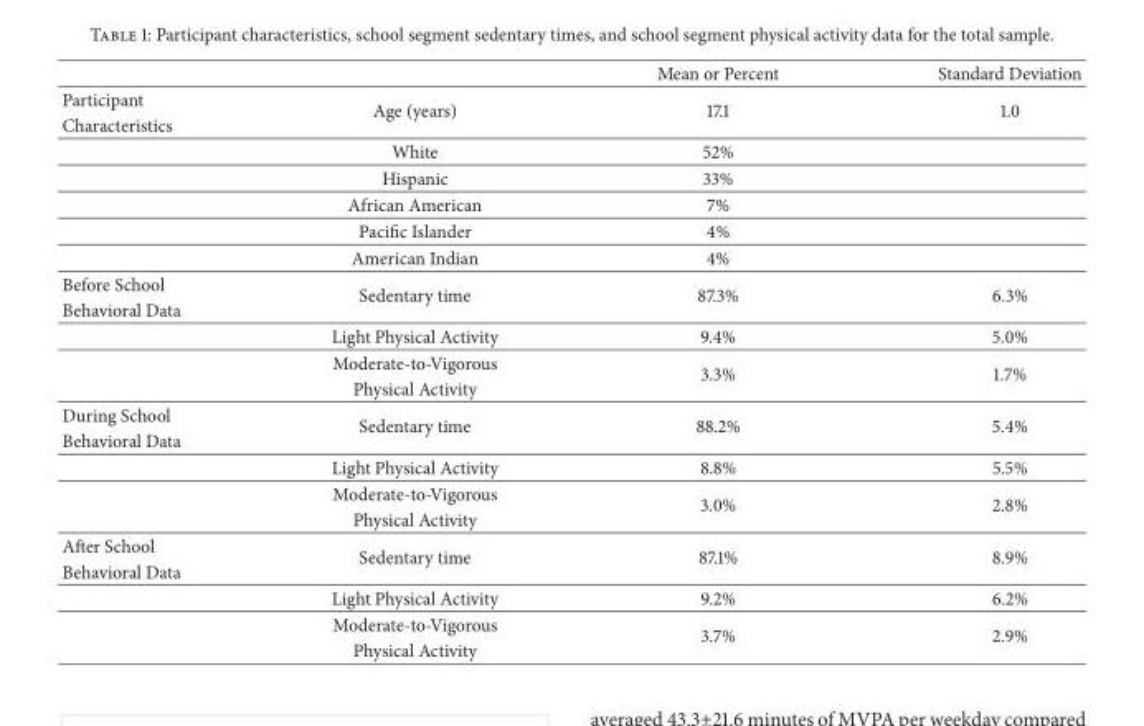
<table><thead><tr><td></td><td></td><td>Mean or Percent</td><td>Standard Deviation</td></tr></thead><tbody><tr><td>Participant</td><td rowspan="2">Age (years)</td><td rowspan="2">17.1</td><td rowspan="2">1.0</td></tr><tr><td rowspan="6">Characteristics</td></tr><tr><td>White</td><td>52%</td><td></td></tr><tr><td>Hispanic</td><td>33%</td><td></td></tr><tr><td>African American</td><td>7%</td><td></td></tr><tr><td>Pacific Islander</td><td>4%</td><td></td></tr><tr><td>American Indian</td><td>4%</td><td></td></tr><tr><td>Before School</td><td rowspan="2">Sedentary time</td><td rowspan="2">87.3%</td><td rowspan="2">6.3%</td></tr><tr><td rowspan="4">Behavioral Data</td></tr><tr><td>Light Physical Activity</td><td>9.4%</td><td>5.0%</td></tr><tr><td>Moderate-to-Vigorous</td><td rowspan="2">3.3%</td><td rowspan="2">1.7%</td></tr><tr><td>Physical Activity</td></tr><tr><td>During School</td><td rowspan="2">Sedentary time</td><td rowspan="2">88.2%</td><td rowspan="2">5.4%</td></tr><tr><td rowspan="4">Behavioral Data</td></tr><tr><td>Light Physical Activity</td><td>8.8%</td><td>5.5%</td></tr><tr><td>Moderate-to-Vigorous</td><td rowspan="2">3.0%</td><td rowspan="2">2.8%</td></tr><tr><td>Physical Activity</td></tr><tr><td>After School</td><td rowspan="2">Sedentary time</td><td rowspan="2">87.1%</td><td rowspan="2">8.9%</td></tr><tr><td rowspan="4">Behavioral Data</td></tr><tr><td>Light Physical Activity</td><td>9.2%</td><td>6.2%</td></tr><tr><td>Moderate-to-Vigorous</td><td rowspan="2">3.7%</td><td rowspan="2">2.9%</td></tr><tr><td>Physical Activity</td></tr></tbody></table>